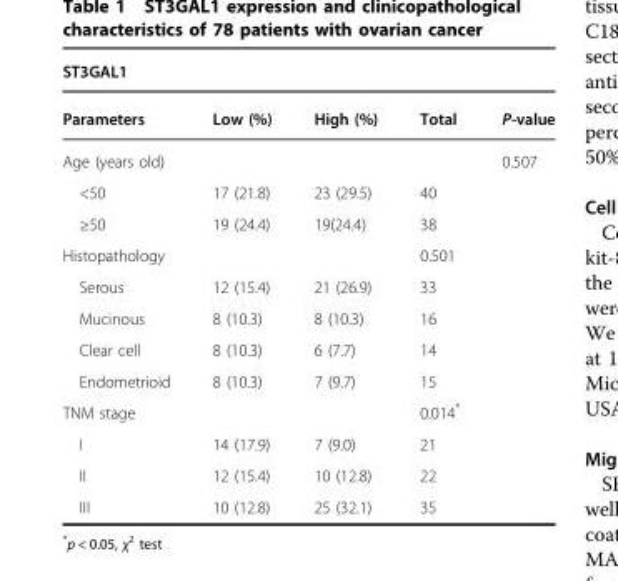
<table><thead><tr><td colspan="5">ST3GAL1</td></tr><tr><td>Parameters</td><td>Low (%)</td><td>High (%)</td><td>Total</td><td>P-value</td></tr></thead><tbody><tr><td>Age (years old)</td><td></td><td></td><td></td><td>0.507</td></tr><tr><td>&lt;50</td><td>17 (21.8)</td><td>23 (29.5)</td><td>40</td><td></td></tr><tr><td>≥50</td><td>19 (24.4)</td><td>19(24.4)</td><td>38</td><td></td></tr><tr><td>Histopathology</td><td></td><td></td><td>0.501</td><td></td></tr><tr><td>Serous</td><td>12 (15.4)</td><td>21 (26.9)</td><td>33</td><td></td></tr><tr><td>Mucinous</td><td>8 (10.3)</td><td>8 (10.3)</td><td>16</td><td></td></tr><tr><td>Clear cell</td><td>8 (10.3)</td><td>6 (7.7)</td><td>14</td><td></td></tr><tr><td>Endometrioid</td><td>8 (10.3)</td><td>7 (9.7)</td><td>15</td><td></td></tr><tr><td>TNM stage</td><td></td><td></td><td>0.014*</td><td></td></tr><tr><td>I</td><td>14 (17.9)</td><td>7 (9.0)</td><td>21</td><td></td></tr><tr><td>II</td><td>12 (15.4)</td><td>10 (12.8)</td><td>22</td><td></td></tr><tr><td>III</td><td>10 (12.8)</td><td>25 (32.1)</td><td>35</td><td></td></tr></tbody></table>